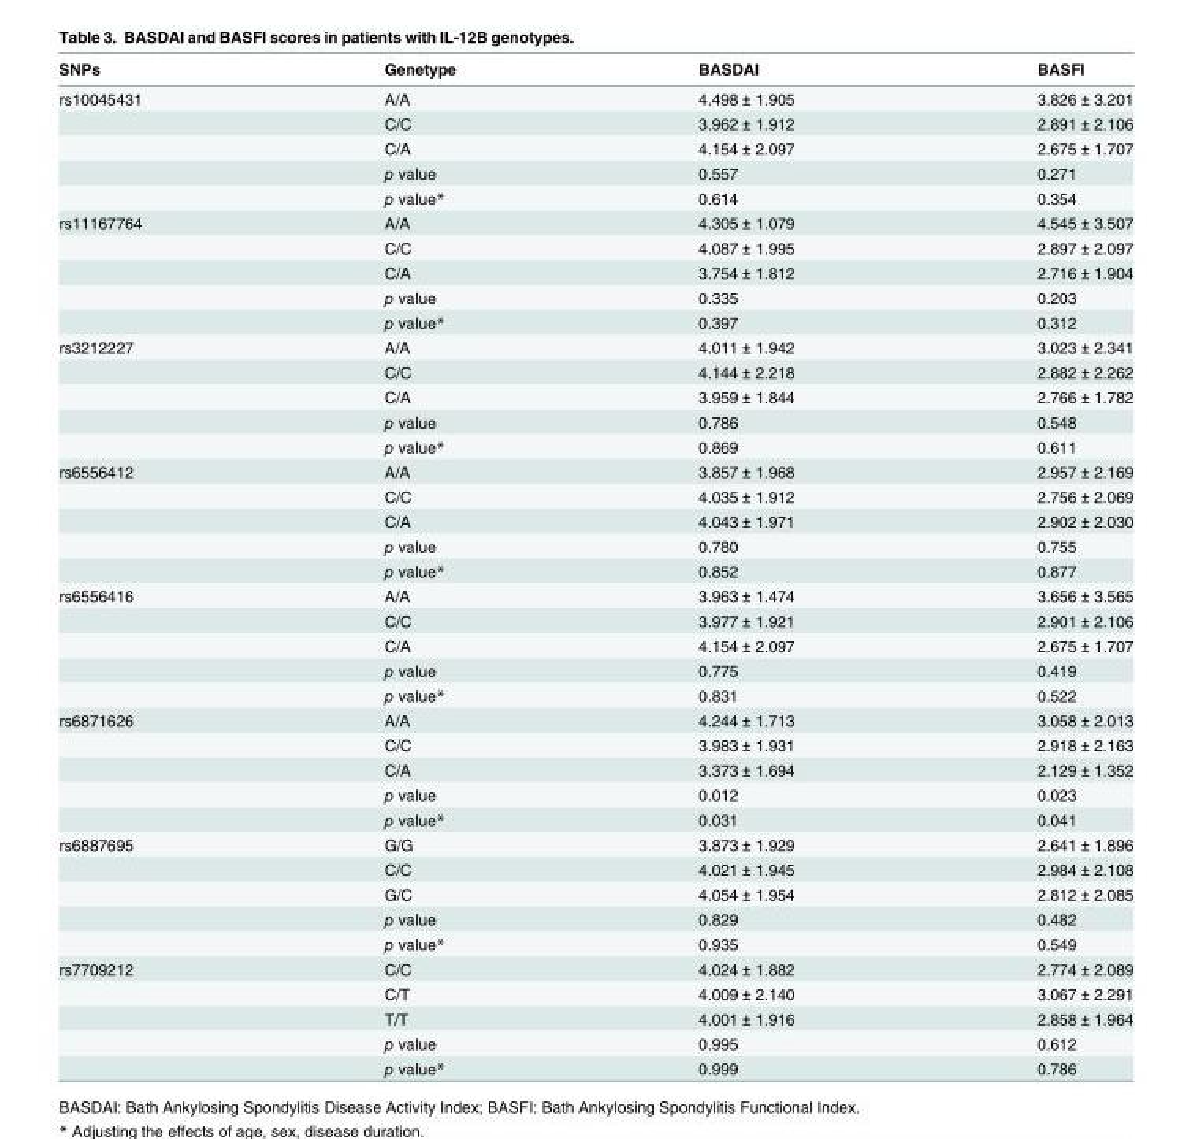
<table><thead><tr><td>SNPs</td><td>Genetype</td><td>BASDAI</td><td>BASFI</td></tr></thead><tbody><tr><td rowspan="5">rs10045431</td><td>A/A</td><td>4.498 ± 1.905</td><td>3.826 ± 3.201</td></tr><tr><td>C/C</td><td>3.962 ± 1.912</td><td>2.891 ± 2.106</td></tr><tr><td>C/A</td><td>4.154 ± 2.097</td><td>2.675 ± 1.707</td></tr><tr><td>p value</td><td>0.557</td><td>0.271</td></tr><tr><td>p value*</td><td>0.614</td><td>0.354</td></tr><tr><td rowspan="5">rs11167764</td><td>A/A</td><td>4.305 ± 1.079</td><td>4.545 ± 3.507</td></tr><tr><td>C/C</td><td>4.087 ± 1.995</td><td>2.897 ± 2.097</td></tr><tr><td>C/A</td><td>3.754 ± 1.812</td><td>2.716 ± 1.904</td></tr><tr><td>p value</td><td>0.335</td><td>0.203</td></tr><tr><td>p value*</td><td>0.397</td><td>0.312</td></tr><tr><td rowspan="5">rs3212227</td><td>A/A</td><td>4.011 ± 1.942</td><td>3.023 ± 2.341</td></tr><tr><td>C/C</td><td>4.144 ± 2.218</td><td>2.882 ± 2.262</td></tr><tr><td>C/A</td><td>3.959 ± 1.844</td><td>2.766 ± 1.782</td></tr><tr><td>p value</td><td>0.786</td><td>0.548</td></tr><tr><td>p value*</td><td>0.869</td><td>0.611</td></tr><tr><td rowspan="5">rs6556412</td><td>A/A</td><td>3.857 ± 1.968</td><td>2.957 ± 2.169</td></tr><tr><td>C/C</td><td>4.035 ± 1.912</td><td>2.756 ± 2.069</td></tr><tr><td>C/A</td><td>4.043 ± 1.971</td><td>2.902 ± 2.030</td></tr><tr><td>p value</td><td>0.780</td><td>0.755</td></tr><tr><td>p value*</td><td>0.852</td><td>0.877</td></tr><tr><td rowspan="5">rs6556416</td><td>A/A</td><td>3.963 ± 1.474</td><td>3.656 ± 3.565</td></tr><tr><td>C/C</td><td>3.977 ± 1.921</td><td>2.901 ± 2.106</td></tr><tr><td>C/A</td><td>4.154 ± 2.097</td><td>2.675 ± 1.707</td></tr><tr><td>p value</td><td>0.775</td><td>0.419</td></tr><tr><td>p value*</td><td>0.831</td><td>0.522</td></tr><tr><td rowspan="5">rs6871626</td><td>A/A</td><td>4.244 ± 1.713</td><td>3.058 ± 2.013</td></tr><tr><td>C/C</td><td>3.983 ± 1.931</td><td>2.918 ± 2.163</td></tr><tr><td>C/A</td><td>3.373 ± 1.694</td><td>2.129 ± 1.352</td></tr><tr><td>p value</td><td>0.012</td><td>0.023</td></tr><tr><td>p value*</td><td>0.031</td><td>0.041</td></tr><tr><td rowspan="5">rs6887695</td><td>G/G</td><td>3.873 ± 1.929</td><td>2.641 ± 1.896</td></tr><tr><td>C/C</td><td>4.021 ± 1.945</td><td>2.984 ± 2.108</td></tr><tr><td>G/C</td><td>4.054 ± 1.954</td><td>2.812 ± 2.085</td></tr><tr><td>p value</td><td>0.829</td><td>0.482</td></tr><tr><td>p value*</td><td>0.935</td><td>0.549</td></tr><tr><td rowspan="5">rs7709212</td><td>C/C</td><td>4.024 ± 1.882</td><td>2.774 ± 2.089</td></tr><tr><td>C/T</td><td>4.009 ± 2.140</td><td>3.067 ± 2.291</td></tr><tr><td>T/T</td><td>4.001 ± 1.916</td><td>2.858 ± 1.964</td></tr><tr><td>p value</td><td>0.995</td><td>0.612</td></tr><tr><td>p value*</td><td>0.999</td><td>0.786</td></tr></tbody></table>